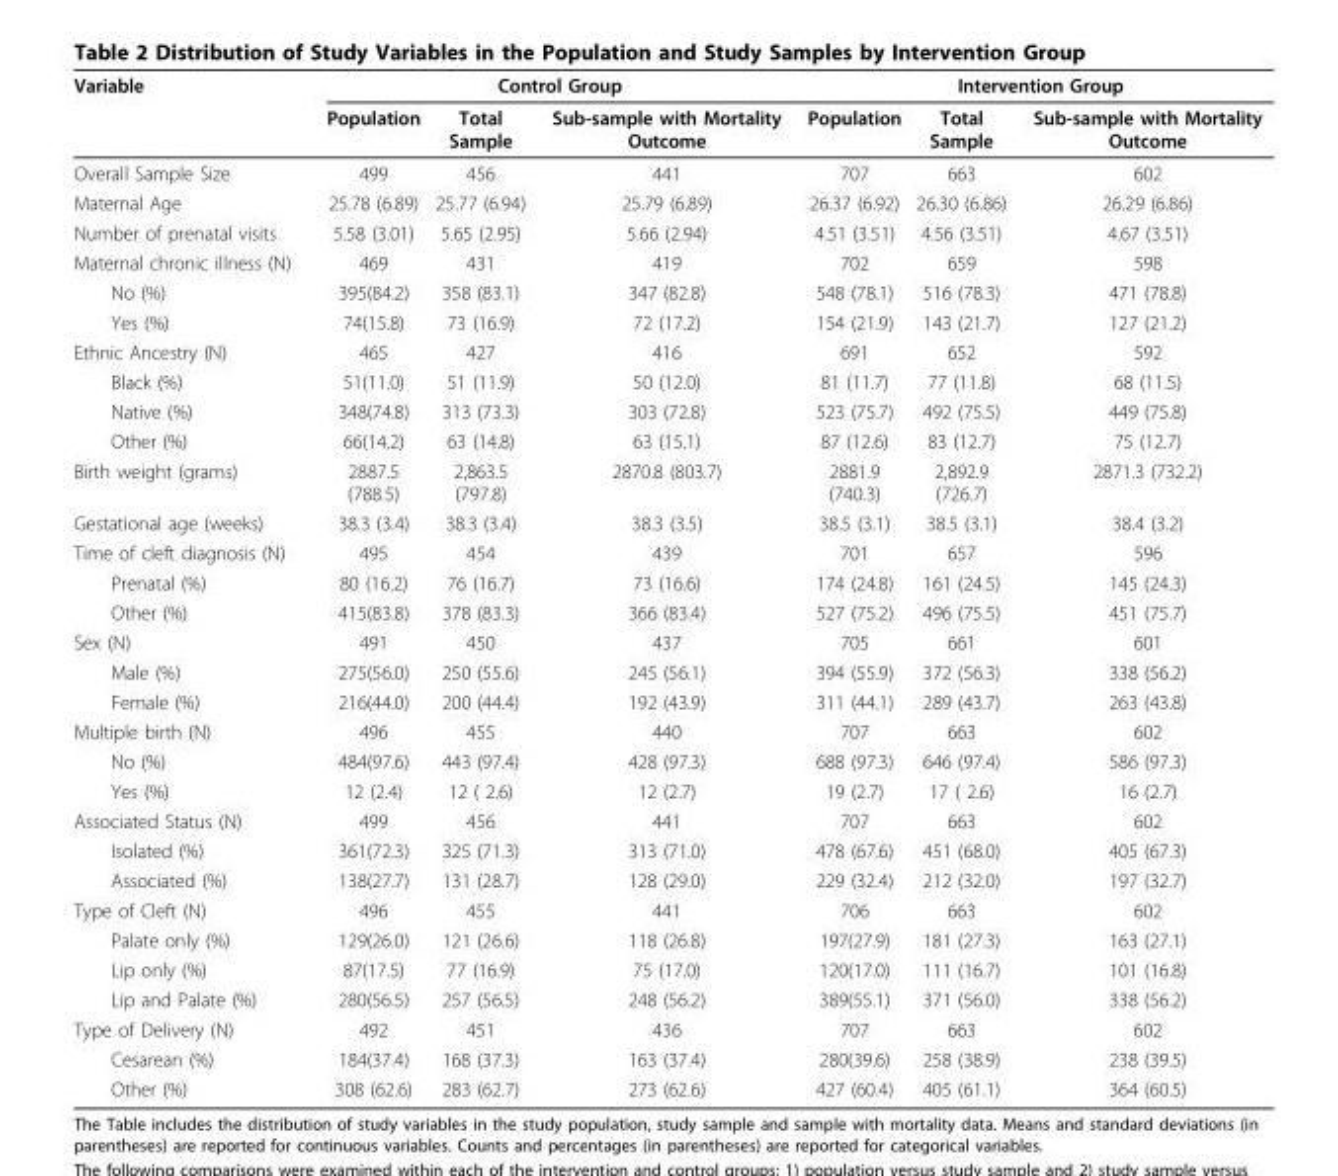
<table><thead><tr><td rowspan="2">Variable</td><td colspan="3">Control Group</td><td colspan="3">Intervention Group</td></tr><tr><td>Population</td><td>Total Sample</td><td>Sub-sample with Mortality Outcome</td><td>Population</td><td>Total Sample</td><td>Sub-sample with Mortality Outcome</td></tr></thead><tbody><tr><td>Overall Sample Size</td><td>499</td><td>456</td><td>441</td><td>707</td><td>663</td><td>602</td></tr><tr><td>Maternal Age</td><td>25.78 (6.89)</td><td>25.77 (6.94)</td><td>25.79 (6.89)</td><td>26.37 (6.92)</td><td>26.30 (6.86)</td><td>26.29 (6.86)</td></tr><tr><td>Number of prenatal visits</td><td>5.58 (3.01)</td><td>5.65 (2.95)</td><td>5.66 (2.94)</td><td>4.51 (3.51)</td><td>4.56 (3.51)</td><td>4.67 (3.51)</td></tr><tr><td>Maternal chronic illness (N)</td><td>469</td><td>431</td><td>419</td><td>702</td><td>659</td><td>598</td></tr><tr><td>No (%)</td><td>395(84.2)</td><td>358 (83.1)</td><td>347 (82.8)</td><td>548 (78.1)</td><td>516 (78.3)</td><td>471 (78.8)</td></tr><tr><td>Yes (%)</td><td>74(15.8)</td><td>73 (16.9)</td><td>72 (17.2)</td><td>154 (21.9)</td><td>143 (21.7)</td><td>127 (21.2)</td></tr><tr><td>Ethnic Ancestry (N)</td><td>465</td><td>427</td><td>416</td><td>691</td><td>652</td><td>592</td></tr><tr><td>Black (%)</td><td>51(11.0)</td><td>51 (11.9)</td><td>50 (12.0)</td><td>81 (11.7)</td><td>77 (11.8)</td><td>68 (11.5)</td></tr><tr><td>Native (%)</td><td>348(74.8)</td><td>313 (73.3)</td><td>303 (72.8)</td><td>523 (75.7)</td><td>492 (75.5)</td><td>449 (75.8)</td></tr><tr><td>Other (%)</td><td>66(14.2)</td><td>63 (14.8)</td><td>63 (15.1)</td><td>87 (12.6)</td><td>83 (12.7)</td><td>75 (12.7)</td></tr><tr><td>Birth weight (grams)</td><td>2887.5 (788.5)</td><td>2,863.5 (797.8)</td><td>2870.8 (803.7)</td><td>2881.9 (740.3)</td><td>2,892.9 (726.7)</td><td>2871.3 (732.2)</td></tr><tr><td>Gestational age (weeks)</td><td>38.3 (3.4)</td><td>38.3 (3.4)</td><td>38.3 (3.5)</td><td>38.5 (3.1)</td><td>38.5 (3.1)</td><td>38.4 (3.2)</td></tr><tr><td>Time of cleft diagnosis (N)</td><td>495</td><td>454</td><td>439</td><td>701</td><td>657</td><td>596</td></tr><tr><td>Prenatal (%)</td><td>80 (16.2)</td><td>76 (16.7)</td><td>73 (16.6)</td><td>174 (24.8)</td><td>161 (24.5)</td><td>145 (24.3)</td></tr><tr><td>Other (%)</td><td>415(83.8)</td><td>378 (83.3)</td><td>366 (83.4)</td><td>527 (75.2)</td><td>496 (75.5)</td><td>451 (75.7)</td></tr><tr><td>Sex (N)</td><td>491</td><td>450</td><td>437</td><td>705</td><td>661</td><td>601</td></tr><tr><td>Male (%)</td><td>275(56.0)</td><td>250 (55.6)</td><td>245 (56.1)</td><td>394 (55.9)</td><td>372 (56.3)</td><td>338 (56.2)</td></tr><tr><td>Female (%)</td><td>216(44.0)</td><td>200 (44.4)</td><td>192 (43.9)</td><td>311 (44.1)</td><td>289 (43.7)</td><td>263 (43.8)</td></tr><tr><td>Multiple birth (N)</td><td>496</td><td>455</td><td>440</td><td>707</td><td>663</td><td>602</td></tr><tr><td>No (%)</td><td>484(97.6)</td><td>443 (97.4)</td><td>428 (97.3)</td><td>688 (97.3)</td><td>646 (97.4)</td><td>586 (97.3)</td></tr><tr><td>Yes (%)</td><td>12 (2.4)</td><td>12 ( 2.6)</td><td>12 (2.7)</td><td>19 (2.7)</td><td>17 ( 2.6)</td><td>16 (2.7)</td></tr><tr><td>Associated Status (N)</td><td>499</td><td>456</td><td>441</td><td>707</td><td>663</td><td>602</td></tr><tr><td>Isolated (%)</td><td>361(72.3)</td><td>325 (71.3)</td><td>313 (71.0)</td><td>478 (67.6)</td><td>451 (68.0)</td><td>405 (67.3)</td></tr><tr><td>Associated (%)</td><td>138(27.7)</td><td>131 (28.7)</td><td>128 (29.0)</td><td>229 (32.4)</td><td>212 (32.0)</td><td>197 (32.7)</td></tr><tr><td>Type of Cleft (N)</td><td>496</td><td>455</td><td>441</td><td>706</td><td>663</td><td>602</td></tr><tr><td>Palate only (%)</td><td>129(26.0)</td><td>121 (26.6)</td><td>118 (26.8)</td><td>197(27.9)</td><td>181 (27.3)</td><td>163 (27.1)</td></tr><tr><td>Lip only (%)</td><td>87(17.5)</td><td>77 (16.9)</td><td>75 (17.0)</td><td>120(17.0)</td><td>111 (16.7)</td><td>101 (16.8)</td></tr><tr><td>Lip and Palate (%)</td><td>280(56.5)</td><td>257 (56.5)</td><td>248 (56.2)</td><td>389(55.1)</td><td>371 (56.0)</td><td>338 (56.2)</td></tr><tr><td>Type of Delivery (N)</td><td>492</td><td>451</td><td>436</td><td>707</td><td>663</td><td>602</td></tr><tr><td>Cesarean (%)</td><td>184(37.4)</td><td>168 (37.3)</td><td>163 (37.4)</td><td>280(39.6)</td><td>258 (38.9)</td><td>238 (39.5)</td></tr><tr><td>Other (%)</td><td>308 (62.6)</td><td>283 (62.7)</td><td>273 (62.6)</td><td>427 (60.4)</td><td>405 (61.1)</td><td>364 (60.5)</td></tr></tbody></table>